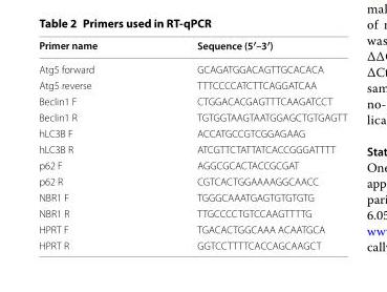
<table><thead><tr><td>Primer name</td><td>Sequence (5′–3′)</td></tr></thead><tbody><tr><td>Atg5 forward</td><td>GCAGATGGACAGTTGCACACA</td></tr><tr><td>Atg5 reverse</td><td>TTTCCCCATCTTCAGGATCAA</td></tr><tr><td>Beclin1 F</td><td>CTGGACACGAGTTTCAAGATCCT</td></tr><tr><td>Beclin1 R</td><td>TGTGGTAAGTAATGGAGCTGTGAGTT</td></tr><tr><td>hLC3B F</td><td>ACCATGCCGTCGGAGAAG</td></tr><tr><td>hLC3B R</td><td>ATCGTTCTATTATCACCGGGATTTT</td></tr><tr><td>p62 F</td><td>AGGCGCACTACCGCGAT</td></tr><tr><td>p62 R</td><td>CGTCACTGGAAAAGGCAACC</td></tr><tr><td>NBR1 F</td><td>TGGGCAAATGAGTGTGTGTG</td></tr><tr><td>NBR1 R</td><td>TTGCCCCTGTCCAAGTTTTG</td></tr><tr><td>HPRT F</td><td>TGACACTGGCAAA ACAATGCA</td></tr><tr><td>HPRT R</td><td>GGTCCTTTTCACCAGCAAGCT</td></tr></tbody></table>